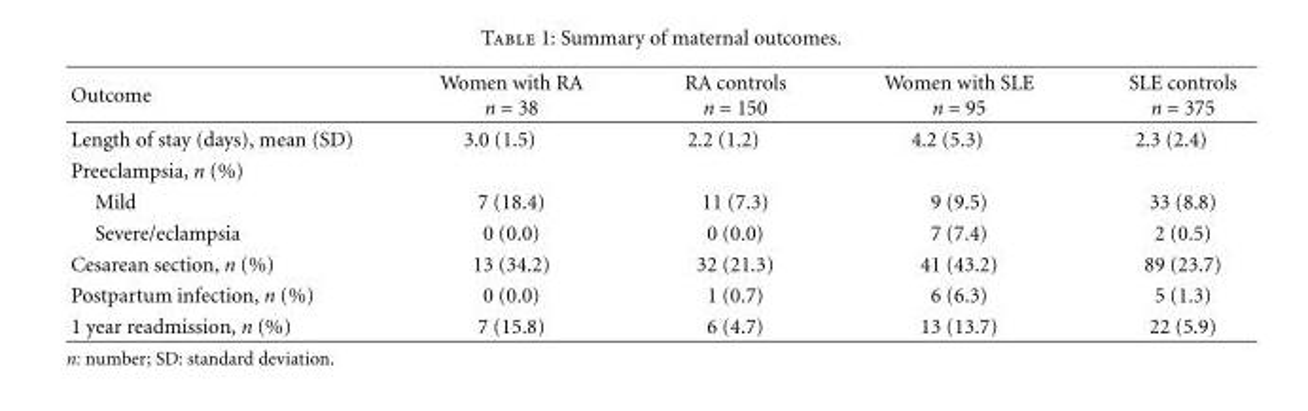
<table><thead><tr><td>Outcome</td><td>Women with RA n = 38</td><td>RA controls n = 150</td><td>Women with SLE n = 95</td><td>SLE controls n = 375</td></tr></thead><tbody><tr><td>Length of stay (days), mean (SD)</td><td>3.0 (1.5)</td><td>2.2 (1.2)</td><td>4.2 (5.3)</td><td>2.3 (2.4)</td></tr><tr><td colspan="5">Preeclampsia, n (%)</td></tr><tr><td>Mild</td><td>7 (18.4)</td><td>11 (7.3)</td><td>9 (9.5)</td><td>33 (8.8)</td></tr><tr><td>Severe/eclampsia</td><td>0 (0.0)</td><td>0 (0.0)</td><td>7 (7.4)</td><td>2 (0.5)</td></tr><tr><td>Cesarean section, n (%)</td><td>13 (34.2)</td><td>32 (21.3)</td><td>41 (43.2)</td><td>89 (23.7)</td></tr><tr><td>Postpartum infection, n (%)</td><td>0 (0.0)</td><td>1 (0.7)</td><td>6 (6.3)</td><td>5 (1.3)</td></tr><tr><td>1 year readmission, n (%)</td><td>7 (15.8)</td><td>6 (4.7)</td><td>13 (13.7)</td><td>22 (5.9)</td></tr></tbody></table>